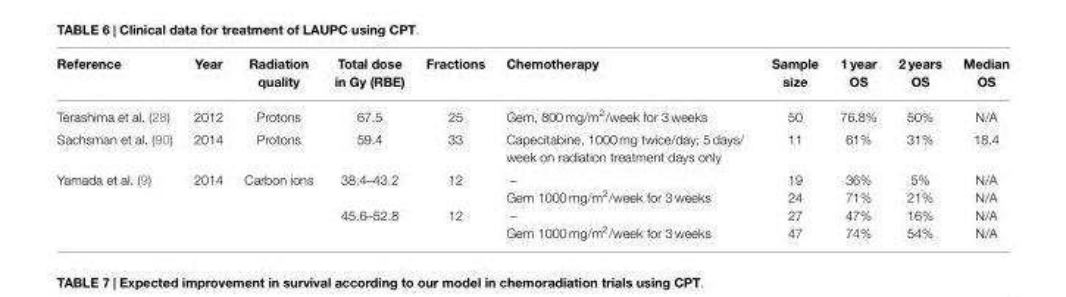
<table><thead><tr><td>Reference</td><td>Year</td><td>Radiation quality</td><td>Total dose in Gy (RBE)</td><td>Fractions</td><td>Chemotherapy</td><td>Sample size</td><td>1 year OS</td><td>2 years OS</td><td>Median OS</td></tr></thead><tbody><tr><td>Terashima et al. (28)</td><td>2012</td><td>Protons</td><td>67.5</td><td>25</td><td>Gem, 800 mg/m<sup>2</sup>/week for 3 weeks</td><td>50</td><td>76.8%</td><td>50%</td><td>N/A</td></tr><tr><td>Sachsman et al. (90)</td><td>2014</td><td>Protons</td><td>59.4</td><td>33</td><td>Capecitabine, 1000 mg twice/day; 5 days/ week on radiation treatment days only</td><td>11</td><td>61%</td><td>31%</td><td>18.4</td></tr><tr><td rowspan="4">Yamada et al. (9)</td><td>2014</td><td>Carbon ions</td><td>38.4–43.2</td><td>12</td><td>–</td><td>19</td><td>36%</td><td>5%</td><td>N/A</td></tr><tr><td></td><td></td><td></td><td></td><td>Gem 1000 mg/m<sup>2</sup>/week for 3 weeks</td><td>24</td><td>71%</td><td>21%</td><td>N/A</td></tr><tr><td></td><td></td><td>45.6–52.8</td><td>12</td><td>–</td><td>27</td><td>47%</td><td>16%</td><td>N/A</td></tr><tr><td></td><td></td><td></td><td></td><td>Gem 1000 mg/m<sup>2</sup>/week for 3 weeks</td><td>47</td><td>74%</td><td>54%</td><td>N/A</td></tr></tbody></table>